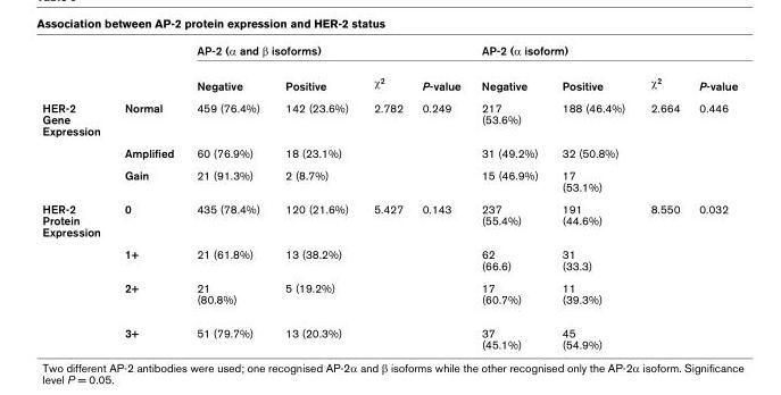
<table><thead><tr><td rowspan="2"></td><td rowspan="2"></td><td colspan="4">AP-2 (α and β isoforms)</td><td colspan="4">AP-2 (α isoform)</td></tr><tr><td>Negative</td><td>Positive</td><td>χ<sup>2</sup></td><td>P-value</td><td>Negative</td><td>Positive</td><td>χ<sup>2</sup></td><td>P-value</td></tr></thead><tbody><tr><td rowspan="3">HER-2 Gene Expression</td><td>Normal</td><td>459 (76.4%)</td><td>142 (23.6%)</td><td>2.782</td><td>0.249</td><td>217 (53.6%)</td><td>188 (46.4%)</td><td>2.664</td><td>0.446</td></tr><tr><td>Amplified</td><td>60 (76.9%)</td><td>18 (23.1%)</td><td></td><td></td><td>31 (49.2%)</td><td>32 (50.8%)</td><td></td><td></td></tr><tr><td>Gain</td><td>21 (91.3%)</td><td>2 (8.7%)</td><td></td><td></td><td>15 (46.9%)</td><td>17 (53.1%)</td><td></td><td></td></tr><tr><td rowspan="4">HER-2 Protein Expression</td><td>0</td><td>435 (78.4%)</td><td>120 (21.6%)</td><td>5.427</td><td>0.143</td><td>237 (55.4%)</td><td>191 (44.6%)</td><td>8.550</td><td>0.032</td></tr><tr><td>1+</td><td>21 (61.8%)</td><td>13 (38.2%)</td><td></td><td></td><td>62 (66.6)</td><td>31 (33.3)</td><td></td><td></td></tr><tr><td>2+</td><td>21 (80.8%)</td><td>5 (19.2%)</td><td></td><td></td><td>17 (60.7%)</td><td>11 (39.3%)</td><td></td><td></td></tr><tr><td>3+</td><td>51 (79.7%)</td><td>13 (20.3%)</td><td></td><td></td><td>37 (45.1%)</td><td>45 (54.9%)</td><td></td><td></td></tr></tbody></table>